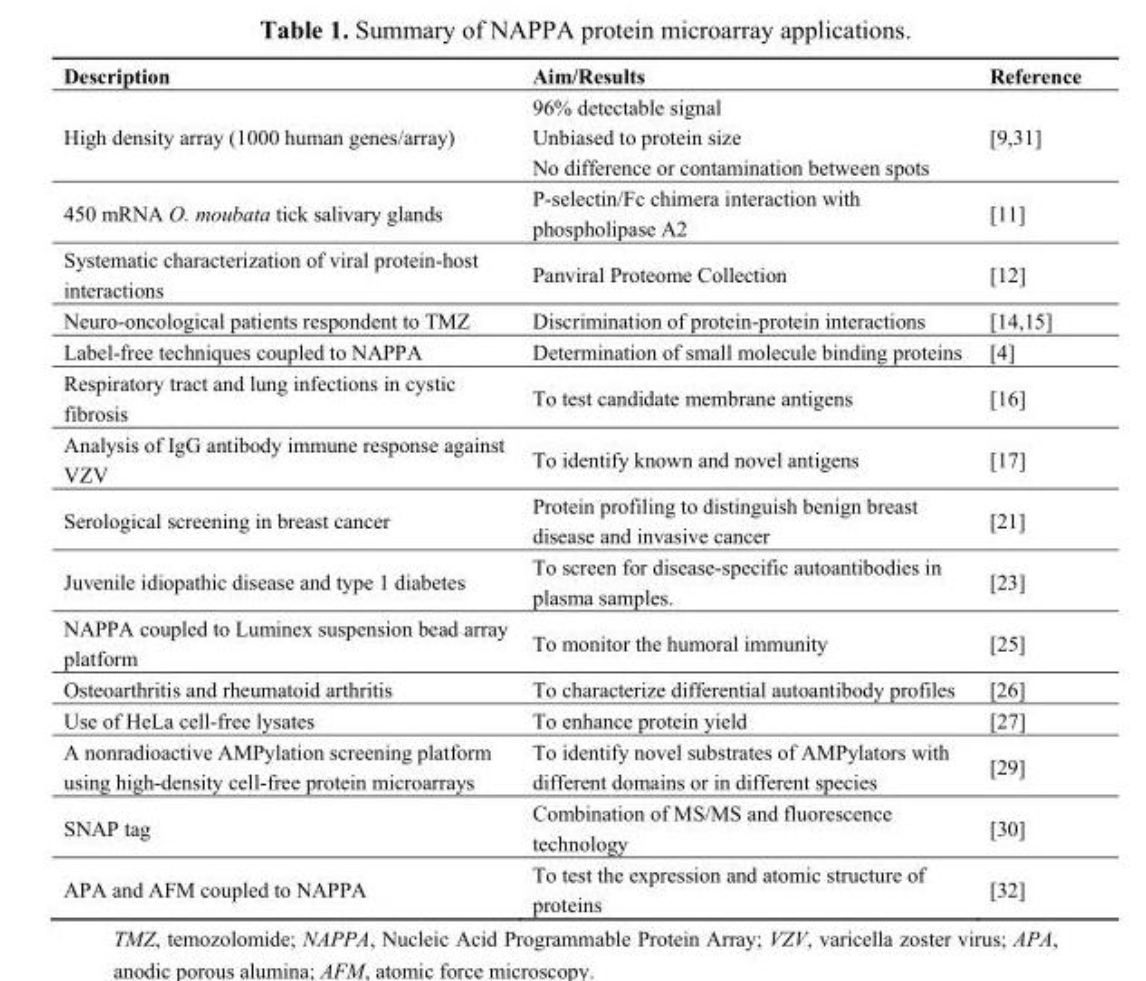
<table><thead><tr><td>Description</td><td>Aim/Results</td><td>Reference</td></tr></thead><tbody><tr><td>High density array (1000 human genes/array)</td><td>96% detectable signal Unbiased to protein size No difference or contamination between spots</td><td>[9,31]</td></tr><tr><td>450 mRNA O. moubata tick salivary glands</td><td>P-selectin/Fc chimera interaction with phospholipase A2</td><td>[11]</td></tr><tr><td>Systematic characterization of viral protein-host interactions</td><td>Panviral Proteome Collection</td><td>[12]</td></tr><tr><td>Neuro-oncological patients respondent to TMZ</td><td>Discrimination of protein-protein interactions</td><td>[14,15]</td></tr><tr><td>Label-free techniques coupled to NAPPA</td><td>Determination of small molecule binding proteins</td><td>[4]</td></tr><tr><td>Respiratory tract and lung infections in cystic fibrosis</td><td>To test candidate membrane antigens</td><td>[16]</td></tr><tr><td>Analysis of IgG antibody immune response against VZV</td><td>To identify known and novel antigens</td><td>[17]</td></tr><tr><td>Serological screening in breast cancer</td><td>Protein profiling to distinguish benign breast disease and invasive cancer</td><td>[21]</td></tr><tr><td>Juvenile idiopathic disease and type 1 diabetes</td><td>To screen for disease-specific autoantibodies in plasma samples.</td><td>[23]</td></tr><tr><td>NAPPA coupled to Luminex suspension bead array platform</td><td>To monitor the humoral immunity</td><td>[25]</td></tr><tr><td>Osteoarthritis and rheumatoid arthritis</td><td>To characterize differential autoantibody profiles</td><td>[26]</td></tr><tr><td>Use of HeLa cell-free lysates</td><td>To enhance protein yield</td><td>[27]</td></tr><tr><td>A nonradioactive AMPylation screening platform using high-density cell-free protein microarrays</td><td>To identify novel substrates of AMPylators with different domains or in different species</td><td>[29]</td></tr><tr><td>SNAP tag</td><td>Combination of MS/MS and fluorescence technology</td><td>[30]</td></tr><tr><td>APA and AFM coupled to NAPPA</td><td>To test the expression and atomic structure of proteins</td><td>[32]</td></tr></tbody></table>